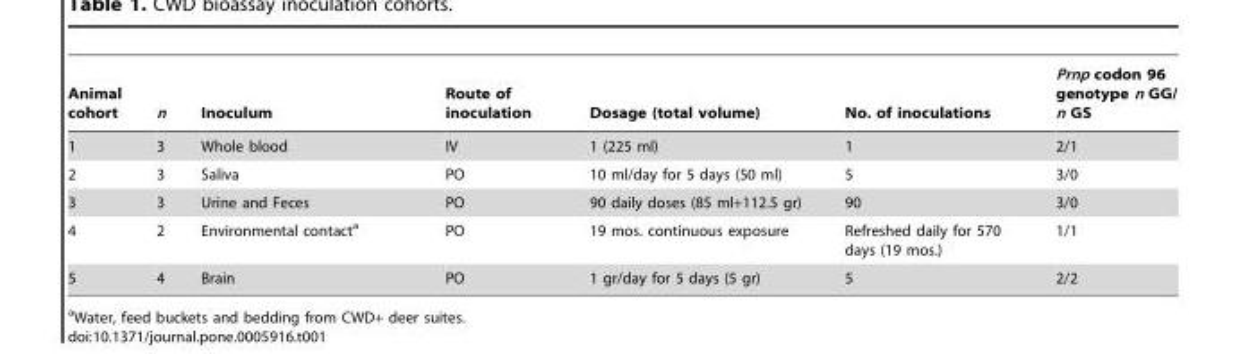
<table><thead><tr><td>Animal cohort</td><td>n</td><td>Inoculum</td><td>Route of inoculation</td><td>Dosage (total volume)</td><td>No. of inoculations</td><td>Prnp codon 96 genotype n GG/ n GS</td></tr></thead><tbody><tr><td>1</td><td>3</td><td>Whole blood</td><td>IV</td><td>1 (225 ml)</td><td>1</td><td>2/1</td></tr><tr><td>2</td><td>3</td><td>Saliva</td><td>PO</td><td>10 ml/day for 5 days (50 ml)</td><td>5</td><td>3/0</td></tr><tr><td>3</td><td>3</td><td>Urine and Feces</td><td>PO</td><td>90 daily doses (85 ml+112.5 gr)</td><td>90</td><td>3/0</td></tr><tr><td>4</td><td>2</td><td>Environmental contact<sup>a</sup></td><td>PO</td><td>19 mos. continuous exposure</td><td>Refreshed daily for 570 days (19 mos.)</td><td>1/1</td></tr><tr><td>5</td><td>4</td><td>Brain</td><td>PO</td><td>1 gr/day for 5 days (5 gr)</td><td>5</td><td>2/2</td></tr></tbody></table>